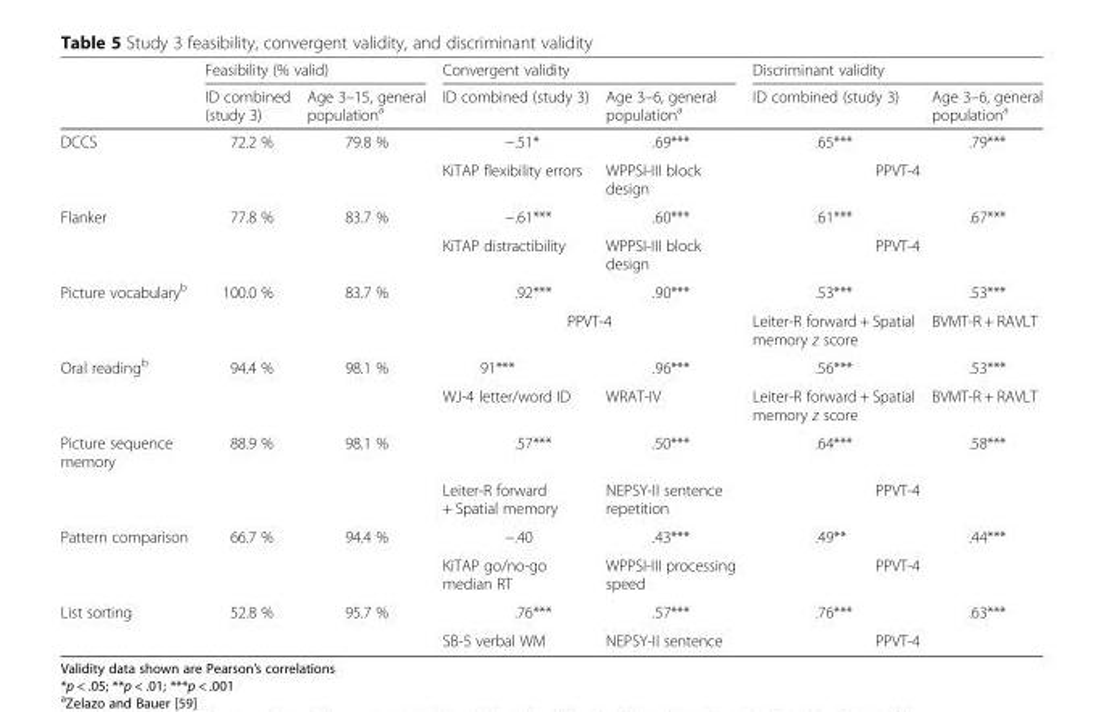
<table><thead><tr><td rowspan="2"></td><td colspan="2">Feasibility (% valid)</td><td colspan="2">Convergent validity</td><td colspan="2">Discriminant validity</td></tr><tr><td>ID combined (study 3)</td><td>Age 3–15, general population<sup>a</sup></td><td>ID combined (study 3)</td><td>Age 3–6, general population<sup>a</sup></td><td>ID combined (study 3)</td><td>Age 3–6, general population<sup>a</sup></td></tr></thead><tbody><tr><td rowspan="2">DCCS</td><td>72.2 %</td><td>79.8 %</td><td>−.51*</td><td>.69***</td><td>.65***</td><td>.79***</td></tr><tr><td></td><td></td><td>KiTAP flexibility errors</td><td>WPPSI-III block design</td><td colspan="2">PPVT-4</td></tr><tr><td rowspan="2">Flanker</td><td>77.8 %</td><td>83.7 %</td><td>−.61***</td><td>.60***</td><td>.61***</td><td>.67***</td></tr><tr><td></td><td></td><td>KiTAP distractibility</td><td>WPPSI-III block design</td><td colspan="2">PPVT-4</td></tr><tr><td rowspan="2">Picture vocabulary<sup>b</sup></td><td>100.0 %</td><td>83.7 %</td><td>.92***</td><td>.90***</td><td>.53***</td><td>.53***</td></tr><tr><td></td><td></td><td colspan="2">PPVT-4</td><td>Leiter-R forward + Spatial memory z score</td><td>BVMT-R + RAVLT</td></tr><tr><td rowspan="2">Oral reading<sup>b</sup></td><td>94.4 %</td><td>98.1 %</td><td>91***</td><td>.96***</td><td>.56***</td><td>.53***</td></tr><tr><td></td><td></td><td>WJ-4 letter/word ID</td><td>WRAT-IV</td><td>Leiter-R forward + Spatial memory z score</td><td>BVMT-R + RAVLT</td></tr><tr><td rowspan="2">Picture sequence memory</td><td>88.9 %</td><td>98.1 %</td><td>.57***</td><td>.50***</td><td>.64***</td><td>.58***</td></tr><tr><td></td><td></td><td>Leiter-R forward + Spatial memory</td><td>NEPSY-II sentence repetition</td><td colspan="2">PPVT-4</td></tr><tr><td rowspan="2">Pattern comparison</td><td>66.7 %</td><td>94.4 %</td><td>−.40</td><td>.43***</td><td>.49**</td><td>.44***</td></tr><tr><td></td><td></td><td>KiTAP go/no-go median RT</td><td>WPPSI-III processing speed</td><td colspan="2">PPVT-4</td></tr><tr><td rowspan="2">List sorting</td><td>52.8 %</td><td>95.7 %</td><td>.76***</td><td>.57***</td><td>.76***</td><td>.63***</td></tr><tr><td></td><td></td><td>SB-5 verbal WM</td><td>NEPSY-II sentence</td><td colspan="2">PPVT-4</td></tr></tbody></table>